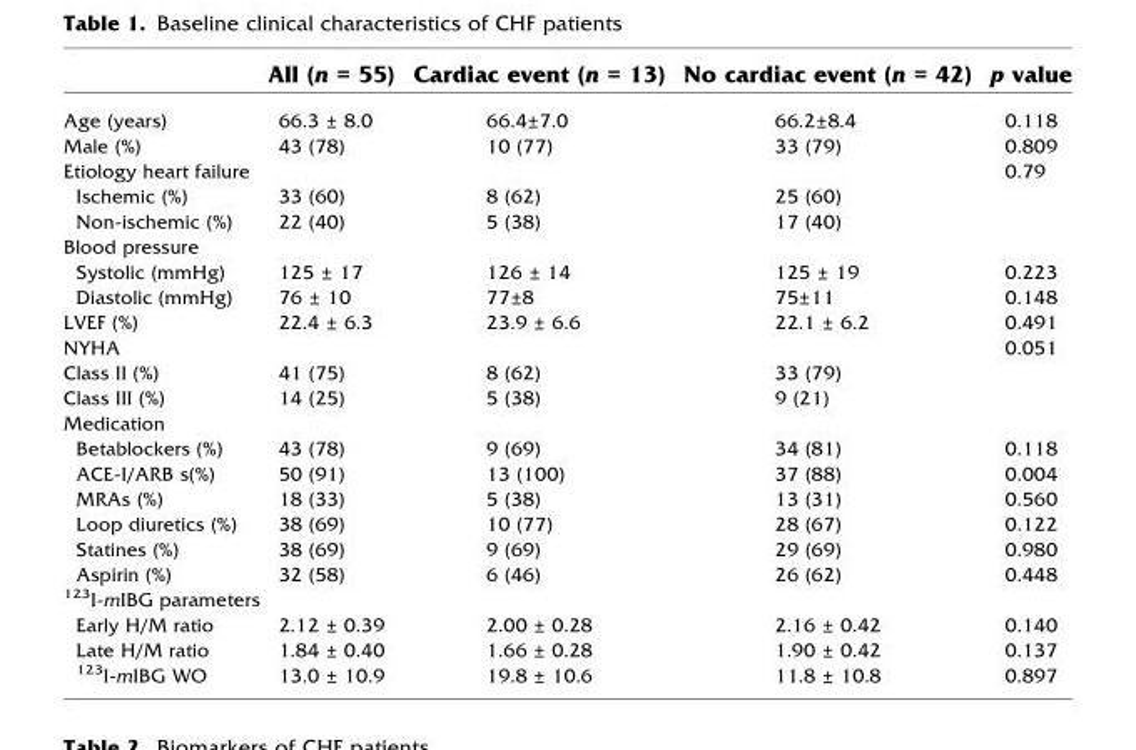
<table><thead><tr><td></td><td>All (n = 55)</td><td>Cardiac event (n = 13)</td><td>No cardiac event (n = 42)</td><td>p value</td></tr></thead><tbody><tr><td>Age (years)</td><td>66.3 ± 8.0</td><td>66.4±7.0</td><td>66.2±8.4</td><td>0.118</td></tr><tr><td>Male (%)</td><td>43 (78)</td><td>10 (77)</td><td>33 (79)</td><td>0.809</td></tr><tr><td>Etiology heart failure</td><td></td><td></td><td></td><td>0.79</td></tr><tr><td>Ischemic (%)</td><td>33 (60)</td><td>8 (62)</td><td>25 (60)</td><td></td></tr><tr><td>Non-ischemic (%)</td><td>22 (40)</td><td>5 (38)</td><td>17 (40)</td><td></td></tr><tr><td colspan="5">Blood pressure</td></tr><tr><td>Systolic (mmHg)</td><td>125 ± 17</td><td>126 ± 14</td><td>125 ± 19</td><td>0.223</td></tr><tr><td>Diastolic (mmHg)</td><td>76 ± 10</td><td>77±8</td><td>75±11</td><td>0.148</td></tr><tr><td>LVEF (%)</td><td>22.4 ± 6.3</td><td>23.9 ± 6.6</td><td>22.1 ± 6.2</td><td>0.491</td></tr><tr><td>NYHA</td><td></td><td></td><td></td><td>0.051</td></tr><tr><td>Class II (%)</td><td>41 (75)</td><td>8 (62)</td><td>33 (79)</td><td></td></tr><tr><td>Class III (%)</td><td>14 (25)</td><td>5 (38)</td><td>9 (21)</td><td></td></tr><tr><td colspan="5">Medication</td></tr><tr><td>Betablockers (%)</td><td>43 (78)</td><td>9 (69)</td><td>34 (81)</td><td>0.118</td></tr><tr><td>ACE-I/ARB s(%)</td><td>50 (91)</td><td>13 (100)</td><td>37 (88)</td><td>0.004</td></tr><tr><td>MRAs (%)</td><td>18 (33)</td><td>5 (38)</td><td>13 (31)</td><td>0.560</td></tr><tr><td>Loop diuretics (%)</td><td>38 (69)</td><td>10 (77)</td><td>28 (67)</td><td>0.122</td></tr><tr><td>Statines (%)</td><td>38 (69)</td><td>9 (69)</td><td>29 (69)</td><td>0.980</td></tr><tr><td>Aspirin (%)</td><td>32 (58)</td><td>6 (46)</td><td>26 (62)</td><td>0.448</td></tr><tr><td colspan="5"><sup>123</sup>I-mIBG parameters</td></tr><tr><td>Early H/M ratio</td><td>2.12 ± 0.39</td><td>2.00 ± 0.28</td><td>2.16 ± 0.42</td><td>0.140</td></tr><tr><td>Late H/M ratio</td><td>1.84 ± 0.40</td><td>1.66 ± 0.28</td><td>1.90 ± 0.42</td><td>0.137</td></tr><tr><td><sup>123</sup>I-mIBG WO</td><td>13.0 ± 10.9</td><td>19.8 ± 10.6</td><td>11.8 ± 10.8</td><td>0.897</td></tr></tbody></table>